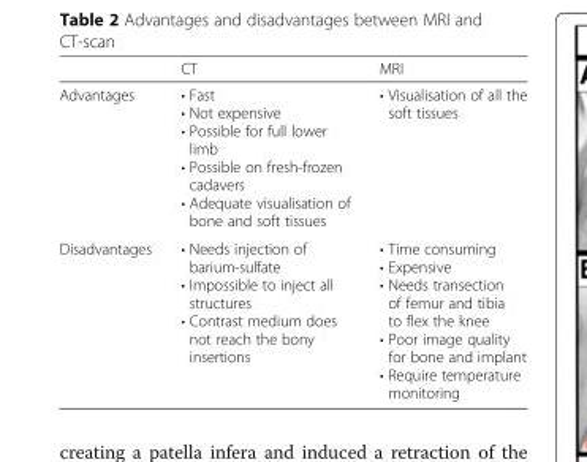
<table><thead><tr><td></td><td>CT</td><td>MRI</td></tr></thead><tbody><tr><td>Advantages</td><td>• Fast • Not expensive • Possible for full lower limb • Possible on fresh-frozen cadavers • Adequate visualisation of bone and soft tissues</td><td>• Visualisation of all the soft tissues</td></tr><tr><td>Disadvantages</td><td>• Needs injection of barium-sulfate • Impossible to inject all structures • Contrast medium does not reach the bony insertions</td><td>• Time consuming • Expensive • Needs transection of femur and tibia to flex the knee • Poor image quality for bone and implant • Require temperature monitoring</td></tr></tbody></table>